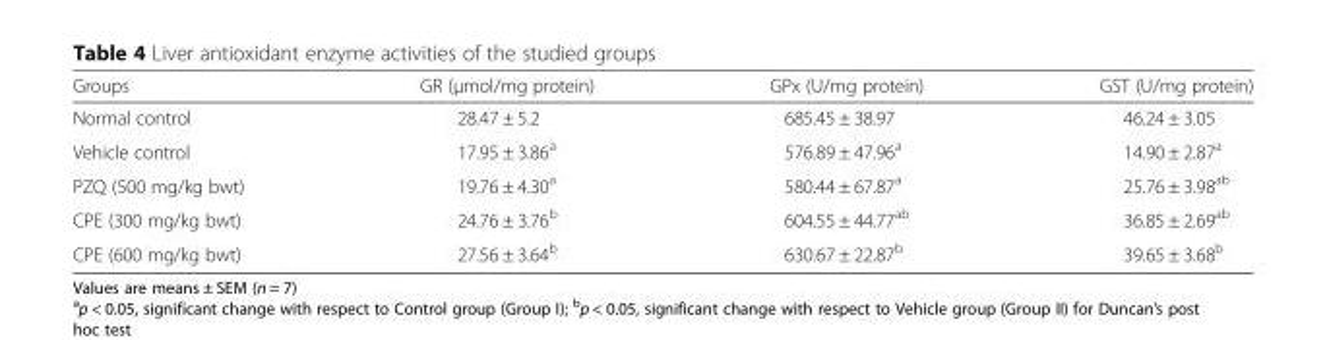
<table><thead><tr><td>Groups</td><td>GR (μmol/mg protein)</td><td>GPx (U/mg protein)</td><td>GST (U/mg protein)</td></tr></thead><tbody><tr><td>Normal control</td><td>28.47 ± 5.2</td><td>685.45 ± 38.97</td><td>46.24 ± 3.05</td></tr><tr><td>Vehicle control</td><td>17.95 ± 3.86<sup>a</sup></td><td>576.89 ± 47.96<sup>a</sup></td><td>14.90 ± 2.87<sup>a</sup></td></tr><tr><td>PZQ (500 mg/kg bwt)</td><td>19.76 ± 4.30<sup>a</sup></td><td>580.44 ± 67.87<sup>a</sup></td><td>25.76 ± 3.98<sup>ab</sup></td></tr><tr><td>CPE (300 mg/kg bwt)</td><td>24.76 ± 3.76<sup>b</sup></td><td>604.55 ± 44.77<sup>ab</sup></td><td>36.85 ± 2.69<sup>ab</sup></td></tr><tr><td>CPE (600 mg/kg bwt)</td><td>27.56 ± 3.64<sup>b</sup></td><td>630.67 ± 22.87<sup>b</sup></td><td>39.65 ± 3.68<sup>b</sup></td></tr></tbody></table>